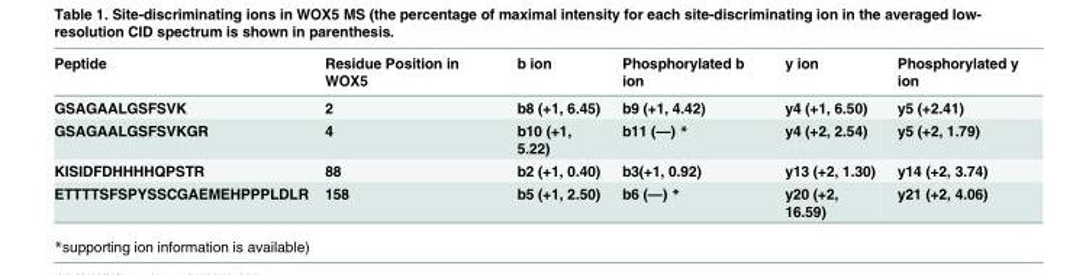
<table><thead><tr><td>Peptide</td><td>Residue Position in WOX5</td><td>b ion</td><td>Phosphorylated b ion</td><td>y ion</td><td>Phosphorylated y ion</td></tr></thead><tbody><tr><td>GSAGAALGSFSVK</td><td>2</td><td>b8 (+1, 6.45)</td><td>b9 (+1, 4.42)</td><td>y4 (+1, 6.50)</td><td>y5 (+2.41)</td></tr><tr><td>GSAGAALGSFSVKGR</td><td>4</td><td>b10 (+1, 5.22)</td><td>b11 (—) *</td><td>y4 (+2, 2.54)</td><td>y5 (+2, 1.79)</td></tr><tr><td>KISIDFDHHHHQPSTR</td><td>88</td><td>b2 (+1, 0.40)</td><td>b3(+1, 0.92)</td><td>y13 (+2, 1.30)</td><td>y14 (+2, 3.74)</td></tr><tr><td>ETTTTSFSPYSSCGAEMEHPPPLDLR</td><td>158</td><td>b5 (+1, 2.50)</td><td>b6 (—) *</td><td>y20 (+2, 16.59)</td><td>y21 (+2, 4.06)</td></tr></tbody></table>